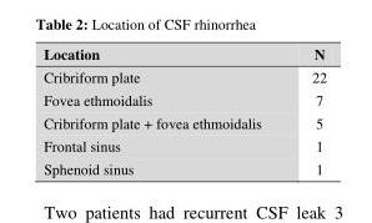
<table><thead><tr><td>Location</td><td>N</td></tr></thead><tbody><tr><td>Cribriform plate</td><td>22</td></tr><tr><td>Fovea ethmoidalis</td><td>7</td></tr><tr><td>Cribriform plate + fovea ethmoidalis</td><td>5</td></tr><tr><td>Frontal sinus</td><td>1</td></tr><tr><td>Sphenoid sinus</td><td>1</td></tr></tbody></table>